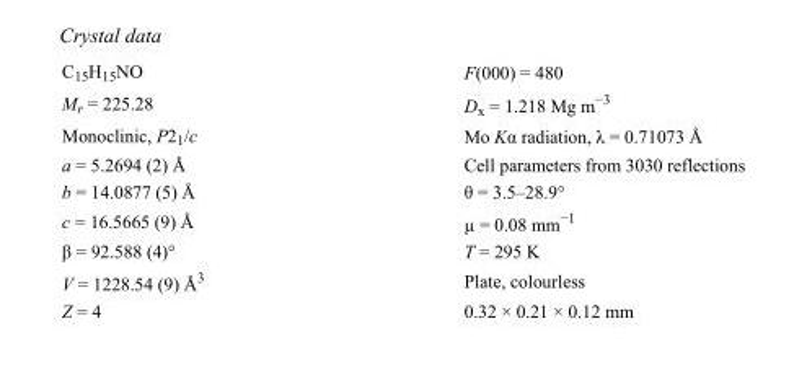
<table><tbody><tr><td>C<sub>15</sub>H<sub>15</sub>NO</td><td>F(000) = 480</td></tr><tr><td>M<sub>r</sub> = 225.28</td><td>D<sub>x</sub> = 1.218 Mg m<sup>−3</sup></td></tr><tr><td>Monoclinic, P2<sub>1</sub>/c</td><td>Mo Kα radiation, λ = 0.71073 Å</td></tr><tr><td>a = 5.2694 (2) Å</td><td>Cell parameters from 3030 reflections</td></tr><tr><td>b = 14.0877 (5) Å</td><td>θ = 3.5–28.9°</td></tr><tr><td>c = 16.5665 (9) Å</td><td>µ = 0.08 mm<sup>−1</sup></td></tr><tr><td>β = 92.588 (4)°</td><td>T = 295 K</td></tr><tr><td>V = 1228.54 (9) Å<sup>3</sup></td><td>Plate, colourless</td></tr><tr><td>Z = 4</td><td>0.32 × 0.21 × 0.12 mm</td></tr></tbody></table>